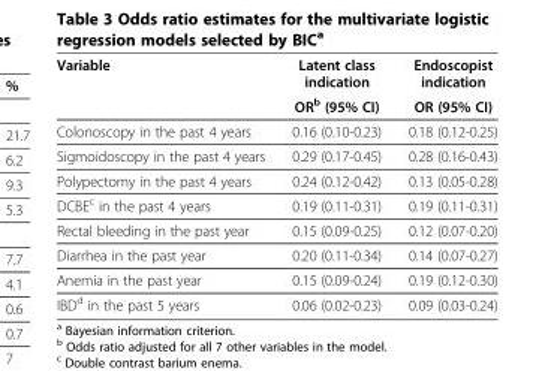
<table><thead><tr><td rowspan="2">Variable</td><td rowspan="2">Latent class indication OR<sup>b</sup> (95% CI)</td><td rowspan="2">Endoscopist indication OR (95% CI)</td></tr><tr></tr></thead><tbody><tr><td>Colonoscopy in the past 4 years</td><td>0.16 (0.10-0.23)</td><td>0.18 (0.12-0.25)</td></tr><tr><td>Sigmoidoscopy in the past 4 years</td><td>0.29 (0.17-0.45)</td><td>0.28 (0.16-0.43)</td></tr><tr><td>Polypectomy in the past 4 years</td><td>0.24 (0.12-0.42)</td><td>0.13 (0.05-0.28)</td></tr><tr><td>DCBE<sup>c</sup> in the past 4 years</td><td>0.19 (0.11-0.31)</td><td>0.19 (0.11-0.31)</td></tr><tr><td>Rectal bleeding in the past year</td><td>0.15 (0.09-0.25)</td><td>0.12 (0.07-0.20)</td></tr><tr><td>Diarrhea in the past year</td><td>0.20 (0.11-0.34)</td><td>0.14 (0.07-0.27)</td></tr><tr><td>Anemia in the past year</td><td>0.15 (0.09-0.24)</td><td>0.19 (0.12-0.30)</td></tr><tr><td>IBD<sup>d</sup> in the past 5 years</td><td>0.06 (0.02-0.23)</td><td>0.09 (0.03-0.24)</td></tr></tbody></table>